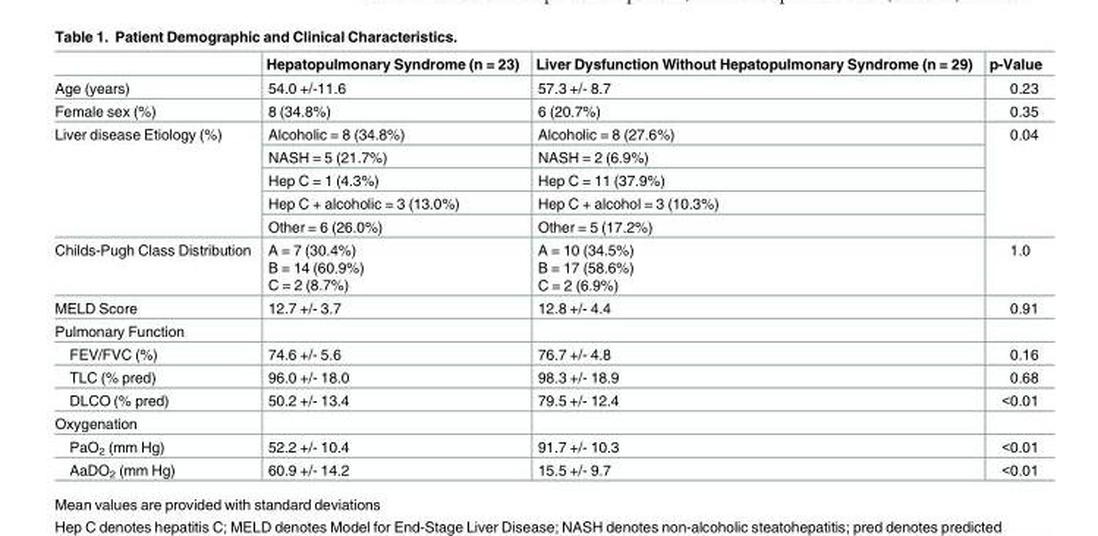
<table><thead><tr><td></td><td>Hepatopulmonary Syndrome (n = 23)</td><td>Liver Dysfunction Without Hepatopulmonary Syndrome (n = 29)</td><td>p-Value</td></tr></thead><tbody><tr><td>Age (years)</td><td>54.0 +/-11.6</td><td>57.3 +/- 8.7</td><td>0.23</td></tr><tr><td>Female sex (%)</td><td>8 (34.8%)</td><td>6 (20.7%)</td><td>0.35</td></tr><tr><td rowspan="5">Liver disease Etiology (%)</td><td>Alcoholic = 8 (34.8%)</td><td>Alcoholic = 8 (27.6%)</td><td rowspan="5">0.04</td></tr><tr><td>NASH = 5 (21.7%)</td><td>NASH = 2 (6.9%)</td></tr><tr><td>Hep C = 1 (4.3%)</td><td>Hep C = 11 (37.9%)</td></tr><tr><td>Hep C + alcoholic = 3 (13.0%)</td><td>Hep C + alcohol = 3 (10.3%)</td></tr><tr><td>Other = 6 (26.0%)</td><td>Other = 5 (17.2%)</td></tr><tr><td>Childs-Pugh Class Distribution</td><td>A = 7 (30.4%) B = 14 (60.9%) C = 2 (8.7%)</td><td>A = 10 (34.5%) B = 17 (58.6%) C = 2 (6.9%)</td><td>1.0</td></tr><tr><td>MELD Score</td><td>12.7 +/- 3.7</td><td>12.8 +/- 4.4</td><td>0.91</td></tr><tr><td colspan="4">Pulmonary Function</td></tr><tr><td>FEV/FVC (%)</td><td>74.6 +/- 5.6</td><td>76.7 +/- 4.8</td><td>0.16</td></tr><tr><td>TLC (% pred)</td><td>96.0 +/- 18.0</td><td>98.3 +/- 18.9</td><td>0.68</td></tr><tr><td>DLCO (% pred)</td><td>50.2 +/- 13.4</td><td>79.5 +/- 12.4</td><td>&lt;0.01</td></tr><tr><td colspan="4">Oxygenation</td></tr><tr><td>PaO<sub>2</sub> (mm Hg)</td><td>52.2 +/- 10.4</td><td>91.7 +/- 10.3</td><td>&lt;0.01</td></tr><tr><td>AaDO<sub>2</sub> (mm Hg)</td><td>60.9 +/- 14.2</td><td>15.5 +/- 9.7</td><td>&lt;0.01</td></tr></tbody></table>